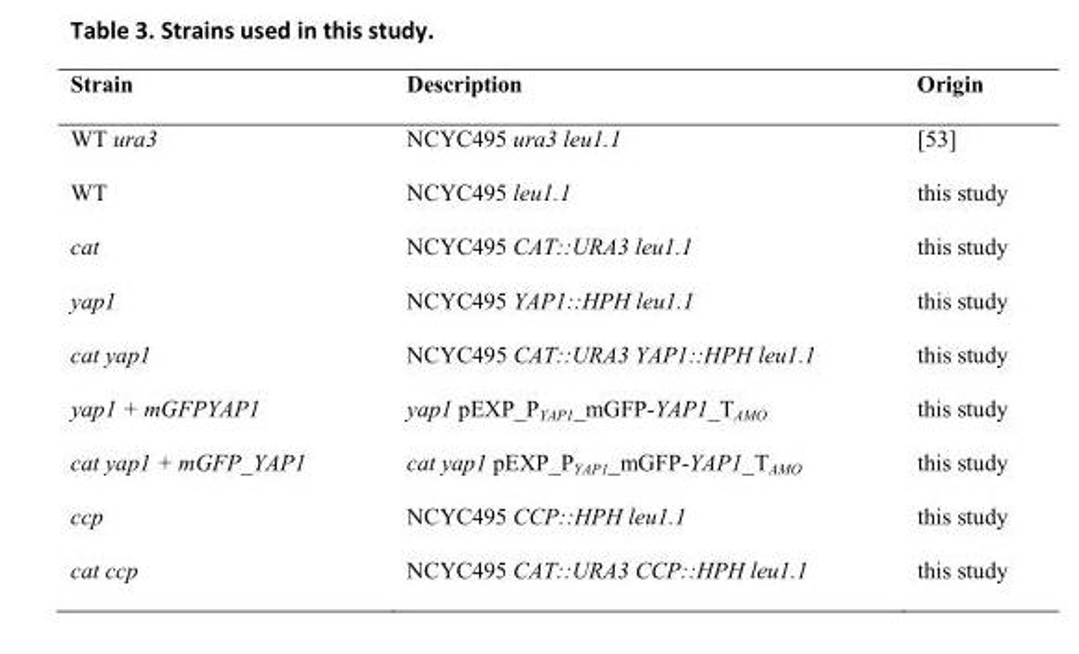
<table><thead><tr><td>Strain</td><td>Description</td><td>Origin</td></tr></thead><tbody><tr><td>WT ura3</td><td>NCYC495 ura3 leu1.1</td><td>[53]</td></tr><tr><td>WT</td><td>NCYC495 leu1.1</td><td>this study</td></tr><tr><td>cat</td><td>NCYC495 CAT::URA3 leu1.1</td><td>this study</td></tr><tr><td>yap1</td><td>NCYC495 YAP1::HPH leu1.1</td><td>this study</td></tr><tr><td>cat yap1</td><td>NCYC495 CAT::URA3 YAP1::HPH leu1.1</td><td>this study</td></tr><tr><td>yap1 + mGFPYAP1</td><td>yap1 pEXP_PYAP1_mGFP-YAP1_TAMO</td><td>this study</td></tr><tr><td>cat yap1 + mGFP_YAP1</td><td>cat yap1 pEXP_PYAP1_mGFP-YAP1_TAMO</td><td>this study</td></tr><tr><td>ccp</td><td>NCYC495 CCP::HPH leu1.1</td><td>this study</td></tr><tr><td>cat ccp</td><td>NCYC495 CAT::URA3 CCP::HPH leu1.1</td><td>this study</td></tr></tbody></table>